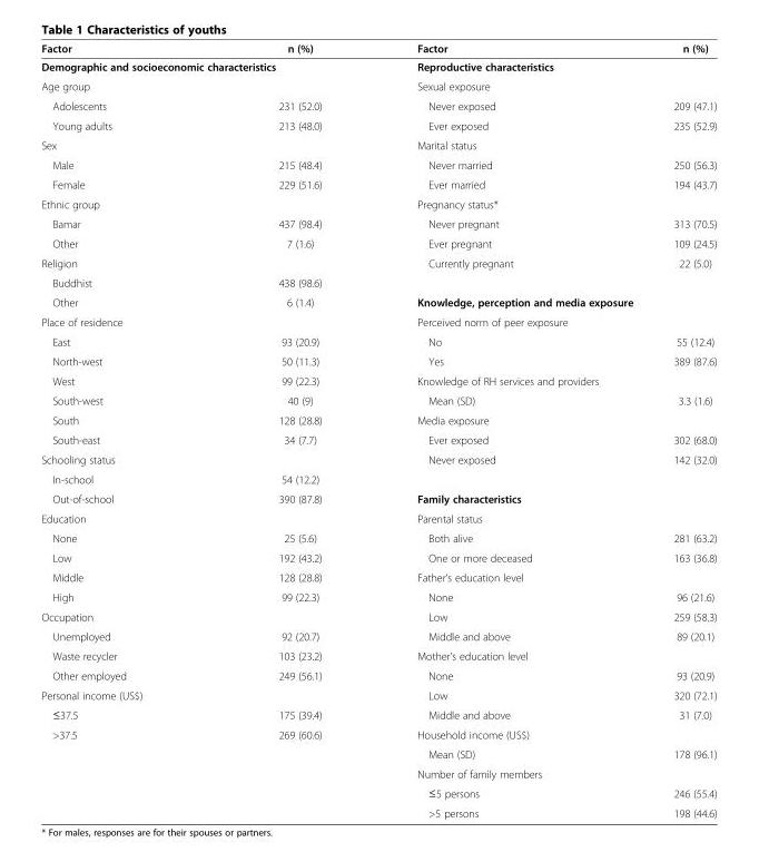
<table><thead><tr><td>Factor</td><td>n (%)</td><td>Factor</td><td>n (%)</td></tr></thead><tbody><tr><td colspan="2">Demographic and socioeconomic characteristics</td><td>Reproductive characteristics</td><td></td></tr><tr><td>Age group</td><td></td><td>Sexual exposure</td><td></td></tr><tr><td>Adolescents</td><td>231 (52.0)</td><td>Never exposed</td><td>209 (47.1)</td></tr><tr><td>Young adults</td><td>213 (48.0)</td><td>Ever exposed</td><td>235 (52.9)</td></tr><tr><td>Sex</td><td></td><td>Marital status</td><td></td></tr><tr><td>Male</td><td>215 (48.4)</td><td>Never married</td><td>250 (56.3)</td></tr><tr><td>Female</td><td>229 (51.6)</td><td>Ever married</td><td>194 (43.7)</td></tr><tr><td>Ethnic group</td><td></td><td>Pregnancy status*</td><td></td></tr><tr><td>Bamar</td><td>437 (98.4)</td><td>Never pregnant</td><td>313 (70.5)</td></tr><tr><td>Other</td><td>7 (1.6)</td><td>Ever pregnant</td><td>109 (24.5)</td></tr><tr><td>Religion</td><td></td><td>Currently pregnant</td><td>22 (5.0)</td></tr><tr><td>Buddhist</td><td>438 (98.6)</td><td colspan="2"></td></tr><tr><td>Other</td><td>6 (1.4)</td><td colspan="2">Knowledge, perception and media exposure</td></tr><tr><td>Place of residence</td><td></td><td>Perceived norm of peer exposure</td><td></td></tr><tr><td>East</td><td>93 (20.9)</td><td>No</td><td>55 (12.4)</td></tr><tr><td>North-west</td><td>50 (11.3)</td><td>Yes</td><td>389 (87.6)</td></tr><tr><td>West</td><td>99 (22.3)</td><td>Knowledge of RH services and providers</td><td></td></tr><tr><td>South-west</td><td>40 (9)</td><td>Mean (SD)</td><td>3.3 (1.6)</td></tr><tr><td>South</td><td>128 (28.8)</td><td>Media exposure</td><td></td></tr><tr><td>South-east</td><td>34 (7.7)</td><td>Ever exposed</td><td>302 (68.0)</td></tr><tr><td>Schooling status</td><td></td><td>Never exposed</td><td>142 (32.0)</td></tr><tr><td>In-school</td><td>54 (12.2)</td><td></td><td></td></tr><tr><td>Out-of-school</td><td>390 (87.8)</td><td>Family characteristics</td><td></td></tr><tr><td>Education</td><td></td><td>Parental status</td><td></td></tr><tr><td>None</td><td>25 (5.6)</td><td>Both alive</td><td>281 (63.2)</td></tr><tr><td>Low</td><td>192 (43.2)</td><td>One or more deceased</td><td>163 (36.8)</td></tr><tr><td>Middle</td><td>128 (28.8)</td><td>Father&#x27;s education level</td><td></td></tr><tr><td>High</td><td>99 (22.3)</td><td>None</td><td>96 (21.6)</td></tr><tr><td>Occupation</td><td></td><td>Low</td><td>259 (58.3)</td></tr><tr><td>Unemployed</td><td>92 (20.7)</td><td>Middle and above</td><td>89 (20.1)</td></tr><tr><td>Waste recycler</td><td>103 (23.2)</td><td>Mother&#x27;s education level</td><td></td></tr><tr><td>Other employed</td><td>249 (56.1)</td><td>None</td><td>93 (20.9)</td></tr><tr><td>Personal income (US$)</td><td></td><td>Low</td><td>320 (72.1)</td></tr><tr><td>≤37.5</td><td>175 (39.4)</td><td>Middle and above</td><td>31 (7.0)</td></tr><tr><td rowspan="5">&gt;37.5</td><td>269 (60.6)</td><td>Household income (US$)</td><td></td></tr><tr><td></td><td>Mean (SD)</td><td>178 (96.1)</td></tr><tr><td></td><td>Number of family members</td><td></td></tr><tr><td></td><td>≤5 persons</td><td>246 (55.4)</td></tr><tr><td></td><td>&gt;5 persons</td><td>198 (44.6)</td></tr></tbody></table>